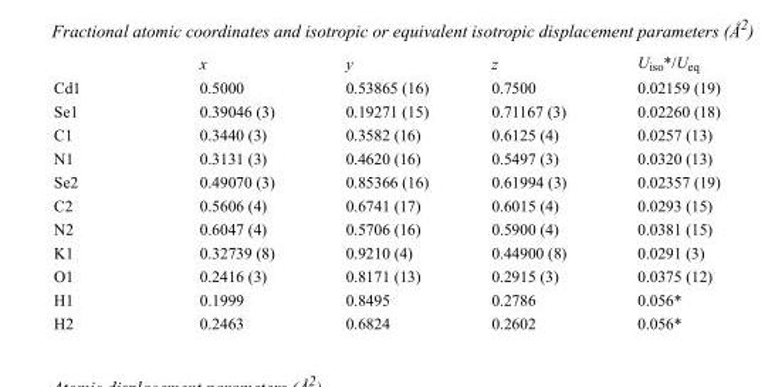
<table><thead><tr><td></td><td>x</td><td>y</td><td>z</td><td>U<sub>iso</sub>*/U<sub>eq</sub></td></tr></thead><tbody><tr><td>Cd1</td><td>0.5000</td><td>0.53865 (16)</td><td>0.7500</td><td>0.02159 (19)</td></tr><tr><td>Se1</td><td>0.39046 (3)</td><td>0.19271 (15)</td><td>0.71167 (3)</td><td>0.02260 (18)</td></tr><tr><td>C1</td><td>0.3440 (3)</td><td>0.3582 (16)</td><td>0.6125 (4)</td><td>0.0257 (13)</td></tr><tr><td>N1</td><td>0.3131 (3)</td><td>0.4620 (16)</td><td>0.5497 (3)</td><td>0.0320 (13)</td></tr><tr><td>Se2</td><td>0.49070 (3)</td><td>0.85366 (16)</td><td>0.61994 (3)</td><td>0.02357 (19)</td></tr><tr><td>C2</td><td>0.5606 (4)</td><td>0.6741 (17)</td><td>0.6015 (4)</td><td>0.0293 (15)</td></tr><tr><td>N2</td><td>0.6047 (4)</td><td>0.5706 (16)</td><td>0.5900 (4)</td><td>0.0381 (15)</td></tr><tr><td>K1</td><td>0.32739 (8)</td><td>0.9210 (4)</td><td>0.44900 (8)</td><td>0.0291 (3)</td></tr><tr><td>O1</td><td>0.2416 (3)</td><td>0.8171 (13)</td><td>0.2915 (3)</td><td>0.0375 (12)</td></tr><tr><td>H1</td><td>0.1999</td><td>0.8495</td><td>0.2786</td><td>0.056*</td></tr><tr><td>H2</td><td>0.2463</td><td>0.6824</td><td>0.2602</td><td>0.056*</td></tr></tbody></table>